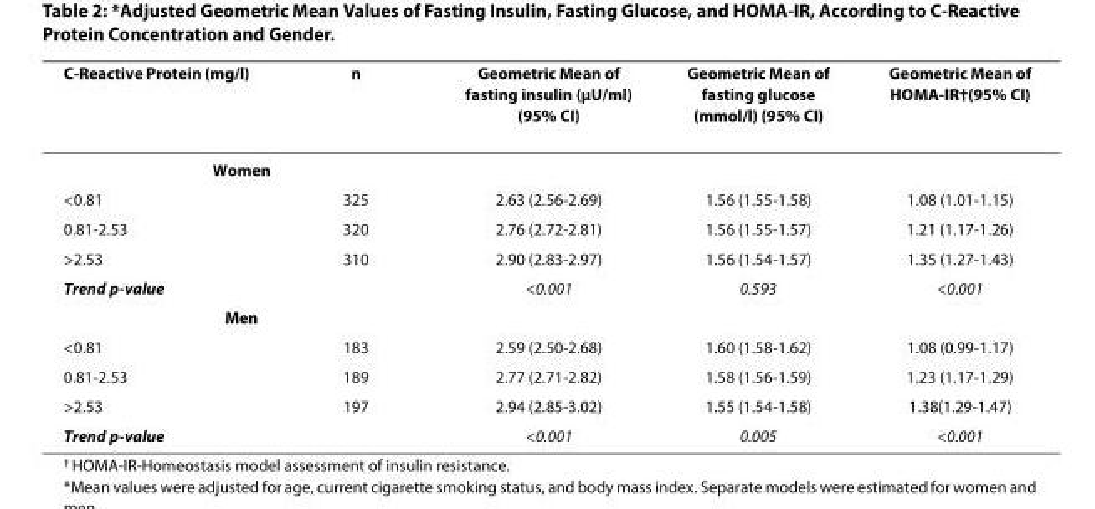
<table><thead><tr><td>C-Reactive Protein (mg/l)</td><td>n</td><td>Geometric Mean of fasting insulin (μU/ml) (95% CI)</td><td>Geometric Mean of fasting glucose (mmol/l) (95% CI)</td><td>Geometric Mean of HOMA-IR<sup>†</sup>(95% CI)</td></tr></thead><tbody><tr><td colspan="5">Women</td></tr><tr><td>&lt;0.81</td><td>325</td><td>2.63 (2.56-2.69)</td><td>1.56 (1.55-1.58)</td><td>1.08 (1.01-1.15)</td></tr><tr><td>0.81-2.53</td><td>320</td><td>2.76 (2.72-2.81)</td><td>1.56 (1.55-1.57)</td><td>1.21 (1.17-1.26)</td></tr><tr><td>&gt;2.53</td><td>310</td><td>2.90 (2.83-2.97)</td><td>1.56 (1.54-1.57)</td><td>1.35 (1.27-1.43)</td></tr><tr><td colspan="2">Trend p-value</td><td>&lt;0.001</td><td>0.593</td><td>&lt;0.001</td></tr><tr><td colspan="5">Men</td></tr><tr><td>&lt;0.81</td><td>183</td><td>2.59 (2.50-2.68)</td><td>1.60 (1.58-1.62)</td><td>1.08 (0.99-1.17)</td></tr><tr><td>0.81-2.53</td><td>189</td><td>2.77 (2.71-2.82)</td><td>1.58 (1.56-1.59)</td><td>1.23 (1.17-1.29)</td></tr><tr><td>&gt;2.53</td><td>197</td><td>2.94 (2.85-3.02)</td><td>1.55 (1.54-1.58)</td><td>1.38(1.29-1.47)</td></tr><tr><td colspan="2">Trend p-value</td><td>&lt;0.001</td><td>0.005</td><td>&lt;0.001</td></tr></tbody></table>